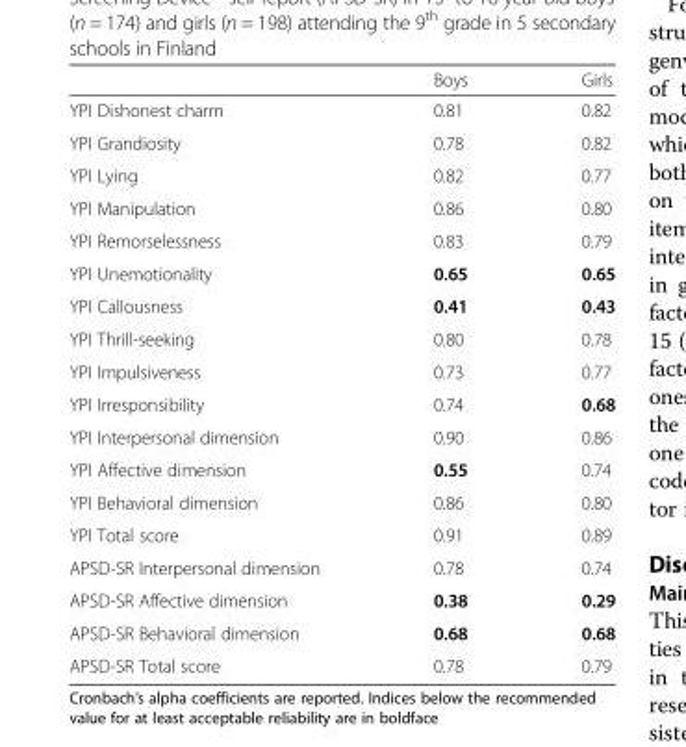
<table><thead><tr><td></td><td>Boys</td><td>Girls</td></tr></thead><tbody><tr><td>YPI Dishonest charm</td><td>0.81</td><td>0.82</td></tr><tr><td>YPI Grandiosity</td><td>0.78</td><td>0.82</td></tr><tr><td>YPI Lying</td><td>0.82</td><td>0.77</td></tr><tr><td>YPI Manipulation</td><td>0.86</td><td>0.80</td></tr><tr><td>YPI Remorselessness</td><td>0.83</td><td>0.79</td></tr><tr><td>YPI Unemotionality</td><td>0.65</td><td>0.65</td></tr><tr><td>YPI Callousness</td><td>0.41</td><td>0.43</td></tr><tr><td>YPI Thrill-seeking</td><td>0.80</td><td>0.78</td></tr><tr><td>YPI Impulsiveness</td><td>0.73</td><td>0.77</td></tr><tr><td>YPI Irresponsibility</td><td>0.74</td><td>0.68</td></tr><tr><td>YPI Interpersonal dimension</td><td>0.90</td><td>0.86</td></tr><tr><td>YPI Affective dimension</td><td>0.55</td><td>0.74</td></tr><tr><td>YPI Behavioral dimension</td><td>0.86</td><td>0.80</td></tr><tr><td>YPI Total score</td><td>0.91</td><td>0.89</td></tr><tr><td>APSD-SR Interpersonal dimension</td><td>0.78</td><td>0.74</td></tr><tr><td>APSD-SR Affective dimension</td><td>0.38</td><td>0.29</td></tr><tr><td>APSD-SR Behavioral dimension</td><td>0.68</td><td>0.68</td></tr><tr><td>APSD-SR Total score</td><td>0.78</td><td>0.79</td></tr></tbody></table>